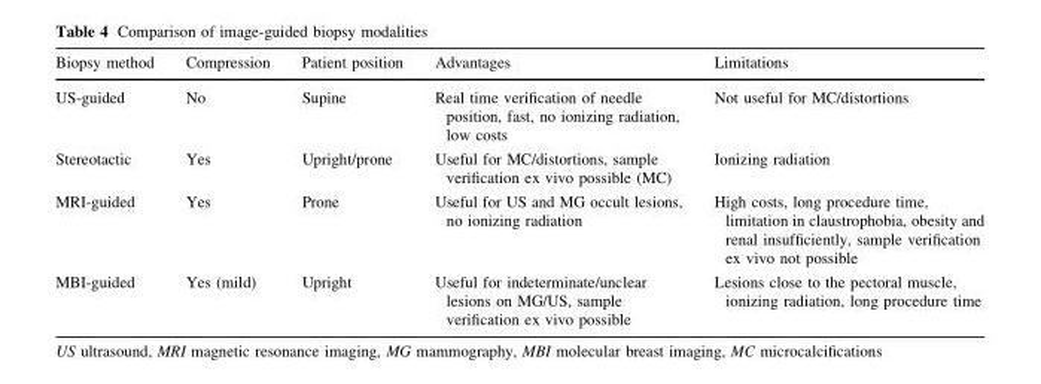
<table><thead><tr><td>Biopsy method</td><td>Compression</td><td>Patient position</td><td>Advantages</td><td>Limitations</td></tr></thead><tbody><tr><td>US-guided</td><td>No</td><td>Supine</td><td>Real time verification of needle position, fast, no ionizing radiation, low costs</td><td>Not useful for MC/distortions</td></tr><tr><td>Stereotactic</td><td>Yes</td><td>Upright/prone</td><td>Useful for MC/distortions, sample verification ex vivo possible (MC)</td><td>Ionizing radiation</td></tr><tr><td>MRI-guided</td><td>Yes</td><td>Prone</td><td>Useful for US and MG occult lesions, no ionizing radiation</td><td>High costs, long procedure time, limitation in claustrophobia, obesity and renal insufficiently, sample verification ex vivo not possible</td></tr><tr><td>MBI-guided</td><td>Yes (mild)</td><td>Upright</td><td>Useful for indeterminate/unclear lesions on MG/US, sample verification ex vivo possible</td><td>Lesions close to the pectoral muscle, ionizing radiation, long procedure time</td></tr></tbody></table>